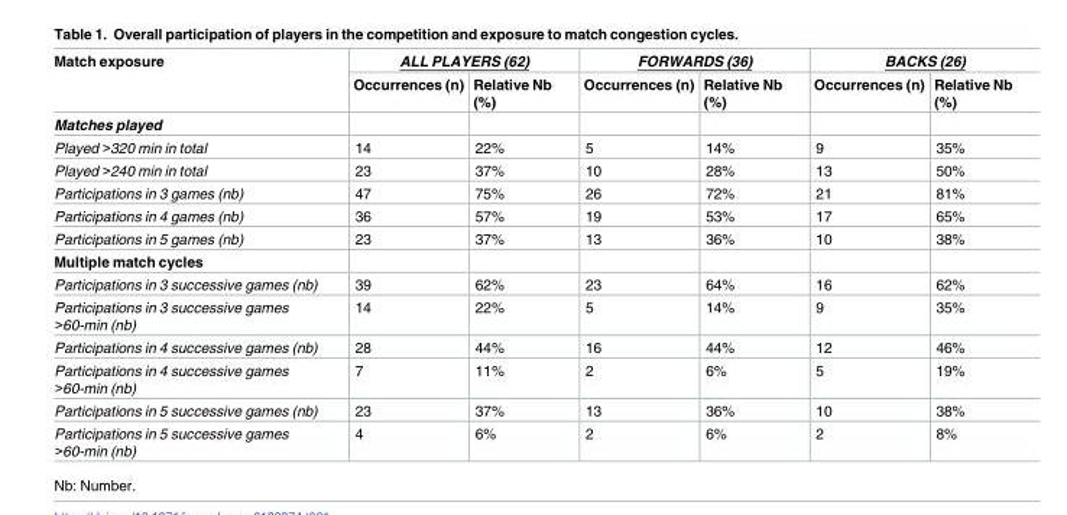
<table><thead><tr><td rowspan="2">Match exposure</td><td colspan="2">ALL PLAYERS (62)</td><td colspan="2">FORWARDS (36)</td><td colspan="2">BACKS (26)</td></tr><tr><td>Occurrences (n)</td><td>Relative Nb (%)</td><td>Occurrences (n)</td><td>Relative Nb (%)</td><td>Occurrences (n)</td><td>Relative Nb (%)</td></tr></thead><tbody><tr><td colspan="7">Matches played</td></tr><tr><td>Played &gt;320 min in total</td><td>14</td><td>22%</td><td>5</td><td>14%</td><td>9</td><td>35%</td></tr><tr><td>Played &gt;240 min in total</td><td>23</td><td>37%</td><td>10</td><td>28%</td><td>13</td><td>50%</td></tr><tr><td>Participations in 3 games (nb)</td><td>47</td><td>75%</td><td>26</td><td>72%</td><td>21</td><td>81%</td></tr><tr><td>Participations in 4 games (nb)</td><td>36</td><td>57%</td><td>19</td><td>53%</td><td>17</td><td>65%</td></tr><tr><td>Participations in 5 games (nb)</td><td>23</td><td>37%</td><td>13</td><td>36%</td><td>10</td><td>38%</td></tr><tr><td colspan="7">Multiple match cycles</td></tr><tr><td>Participations in 3 successive games (nb)</td><td>39</td><td>62%</td><td>23</td><td>64%</td><td>16</td><td>62%</td></tr><tr><td>Participations in 3 successive games &gt;60-min (nb)</td><td>14</td><td>22%</td><td>5</td><td>14%</td><td>9</td><td>35%</td></tr><tr><td>Participations in 4 successive games (nb)</td><td>28</td><td>44%</td><td>16</td><td>44%</td><td>12</td><td>46%</td></tr><tr><td>Participations in 4 successive games &gt;60-min (nb)</td><td>7</td><td>11%</td><td>2</td><td>6%</td><td>5</td><td>19%</td></tr><tr><td>Participations in 5 successive games (nb)</td><td>23</td><td>37%</td><td>13</td><td>36%</td><td>10</td><td>38%</td></tr><tr><td>Participations in 5 successive games &gt;60-min (nb)</td><td>4</td><td>6%</td><td>2</td><td>6%</td><td>2</td><td>8%</td></tr></tbody></table>